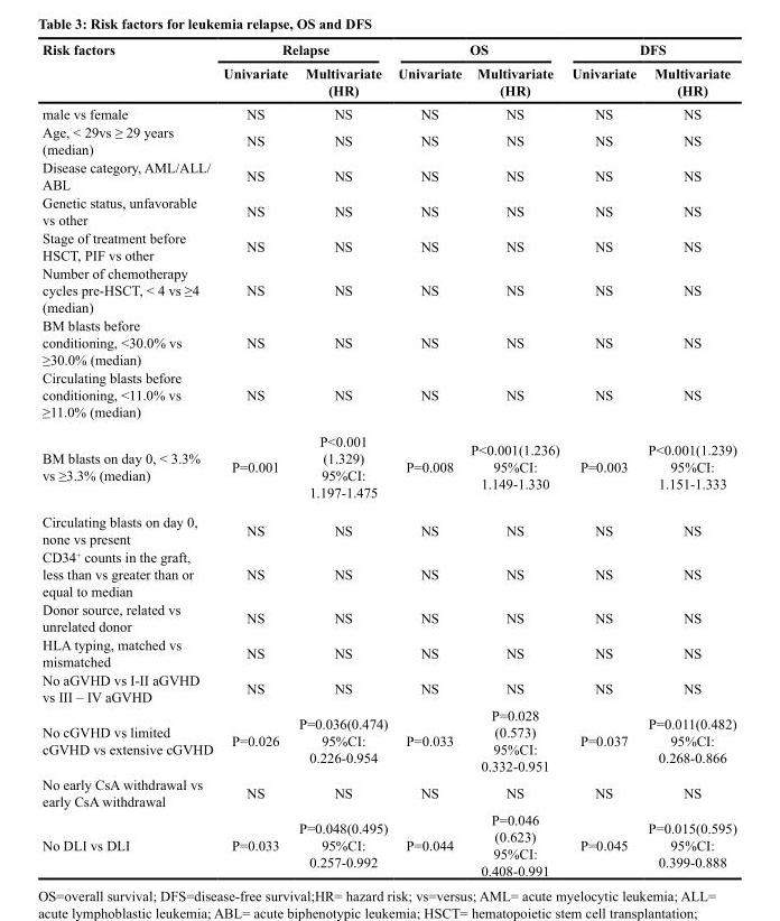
<table><thead><tr><td rowspan="2">Risk factors</td><td colspan="2">Relapse</td><td colspan="2">OS</td><td colspan="2">DFS</td></tr><tr><td>Univariate</td><td>Multivariate (HR)</td><td>Univariate</td><td>Multivariate (HR)</td><td>Univariate</td><td>Multivariate (HR)</td></tr></thead><tbody><tr><td>male vs female</td><td>NS</td><td>NS</td><td>NS</td><td>NS</td><td>NS</td><td>NS</td></tr><tr><td>Age, &lt; 29vs ≥ 29 years (median)</td><td>NS</td><td>NS</td><td>NS</td><td>NS</td><td>NS</td><td>NS</td></tr><tr><td>Disease category, AML/ALL/ ABL</td><td>NS</td><td>NS</td><td>NS</td><td>NS</td><td>NS</td><td>NS</td></tr><tr><td>Genetic status, unfavorable vs other</td><td>NS</td><td>NS</td><td>NS</td><td>NS</td><td>NS</td><td>NS</td></tr><tr><td>Stage of treatment before HSCT, PIF vs other</td><td>NS</td><td>NS</td><td>NS</td><td>NS</td><td>NS</td><td>NS</td></tr><tr><td>Number of chemotherapy cycles pre-HSCT, &lt; 4 vs ≥4 (median)</td><td>NS</td><td>NS</td><td>NS</td><td>NS</td><td>NS</td><td>NS</td></tr><tr><td>BM blasts before conditioning, &lt;30.0% vs ≥30.0% (median)</td><td>NS</td><td>NS</td><td>NS</td><td>NS</td><td>NS</td><td>NS</td></tr><tr><td>Circulating blasts before conditioning, &lt;11.0% vs ≥11.0% (median)</td><td>NS</td><td>NS</td><td>NS</td><td>NS</td><td>NS</td><td>NS</td></tr><tr><td>BM blasts on day 0, &lt; 3.3% vs ≥3.3% (median)</td><td>P=0.001</td><td>P&lt;0.001 (1.329) 95%CI: 1.197-1.475</td><td>P=0.008</td><td>P&lt;0.001(1.236) 95%CI: 1.149-1.330</td><td>P=0.003</td><td>P&lt;0.001(1.239) 95%CI: 1.151-1.333</td></tr><tr><td>Circulating blasts on day 0, none vs present</td><td>NS</td><td>NS</td><td>NS</td><td>NS</td><td>NS</td><td>NS</td></tr><tr><td>CD34<sup>+</sup> counts in the graft, less than vs greater than or equal to median</td><td>NS</td><td>NS</td><td>NS</td><td>NS</td><td>NS</td><td>NS</td></tr><tr><td>Donor source, related vs unrelated donor</td><td>NS</td><td>NS</td><td>NS</td><td>NS</td><td>NS</td><td>NS</td></tr><tr><td>HLA typing, matched vs mismatched</td><td>NS</td><td>NS</td><td>NS</td><td>NS</td><td>NS</td><td>NS</td></tr><tr><td>No aGVHD vs I-II aGVHD vs III – IV aGVHD</td><td>NS</td><td>NS</td><td>NS</td><td>NS</td><td>NS</td><td>NS</td></tr><tr><td>No cGVHD vs limited cGVHD vs extensive cGVHD</td><td>P=0.026</td><td>P=0.036(0.474) 95%CI: 0.226-0.954</td><td>P=0.033</td><td>P=0.028 (0.573) 95%CI: 0.332-0.951</td><td>P=0.037</td><td>P=0.011(0.482) 95%CI: 0.268-0.866</td></tr><tr><td>No early CsA withdrawal vs early CsA withdrawal</td><td>NS</td><td>NS</td><td>NS</td><td>NS</td><td>NS</td><td>NS</td></tr><tr><td>No DLI vs DLI</td><td>P=0.033</td><td>P=0.048(0.495) 95%CI: 0.257-0.992</td><td>P=0.044</td><td>P=0.046 (0.623) 95%CI: 0.408-0.991</td><td>P=0.045</td><td>P=0.015(0.595) 95%CI: 0.399-0.888</td></tr></tbody></table>